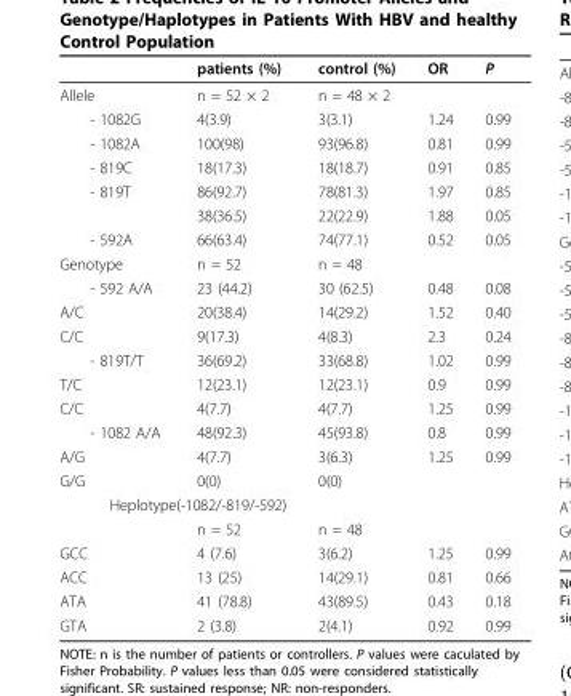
<table><thead><tr><td></td><td>patients (%)</td><td>control (%)</td><td>OR</td><td>P</td></tr></thead><tbody><tr><td>Allele</td><td>n = 52 × 2</td><td>n = 48 × 2</td><td></td><td></td></tr><tr><td>- 1082G</td><td>4(3.9)</td><td>3(3.1)</td><td>1.24</td><td>0.99</td></tr><tr><td>- 1082A</td><td>100(98)</td><td>93(96.8)</td><td>0.81</td><td>0.99</td></tr><tr><td>- 819C</td><td>18(17.3)</td><td>18(18.7)</td><td>0.91</td><td>0.85</td></tr><tr><td rowspan="2">- 819T</td><td>86(92.7)</td><td>78(81.3)</td><td>1.97</td><td>0.85</td></tr><tr><td>38(36.5)</td><td>22(22.9)</td><td>1.88</td><td>0.05</td></tr><tr><td>- 592A</td><td>66(63.4)</td><td>74(77.1)</td><td>0.52</td><td>0.05</td></tr><tr><td>Genotype</td><td>n = 52</td><td>n = 48</td><td></td><td></td></tr><tr><td>- 592 A/A</td><td>23 (44.2)</td><td>30 (62.5)</td><td>0.48</td><td>0.08</td></tr><tr><td>A/C</td><td>20(38.4)</td><td>14(29.2)</td><td>1.52</td><td>0.40</td></tr><tr><td>C/C</td><td>9(17.3)</td><td>4(8.3)</td><td>2.3</td><td>0.24</td></tr><tr><td>- 819T/T</td><td>36(69.2)</td><td>33(68.8)</td><td>1.02</td><td>0.99</td></tr><tr><td>T/C</td><td>12(23.1)</td><td>12(23.1)</td><td>0.9</td><td>0.99</td></tr><tr><td>C/C</td><td>4(7.7)</td><td>4(7.7)</td><td>1.25</td><td>0.99</td></tr><tr><td>- 1082 A/A</td><td>48(92.3)</td><td>45(93.8)</td><td>0.8</td><td>0.99</td></tr><tr><td>A/G</td><td>4(7.7)</td><td>3(6.3)</td><td>1.25</td><td>0.99</td></tr><tr><td>G/G</td><td>0(0)</td><td>0(0)</td><td></td><td></td></tr><tr><td colspan="5">Heplotype(-1082/-819/-592)</td></tr><tr><td></td><td>n = 52</td><td>n = 48</td><td></td><td></td></tr><tr><td>GCC</td><td>4 (7.6)</td><td>3(6.2)</td><td>1.25</td><td>0.99</td></tr><tr><td>ACC</td><td>13 (25)</td><td>14(29.1)</td><td>0.81</td><td>0.66</td></tr><tr><td>ATA</td><td>41 (78.8)</td><td>43(89.5)</td><td>0.43</td><td>0.18</td></tr><tr><td>GTA</td><td>2 (3.8)</td><td>2(4.1)</td><td>0.92</td><td>0.99</td></tr></tbody></table>